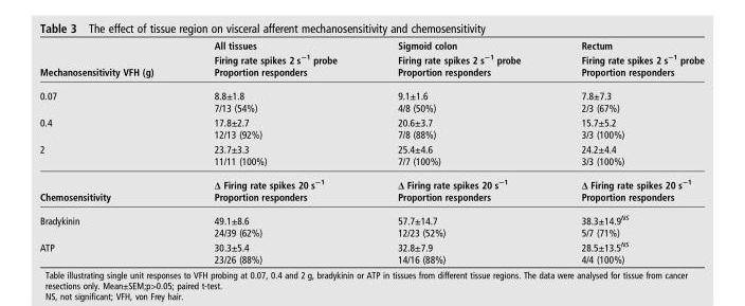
<table><thead><tr><td rowspan="2">Mechanosensitivity VFH (g)</td><td rowspan="2">All tissues Firing rate spikes 2 s<sup>−1</sup> probe Proportion responders</td><td rowspan="2">Sigmoid colon Firing rate spikes 2 s<sup>−1</sup> probe Proportion responders</td><td rowspan="2">Rectum Firing rate spikes 2 s<sup>−1</sup> probe Proportion responders</td></tr><tr></tr></thead><tbody><tr><td>0.07</td><td>8.8±1.8 7/13 (54%)</td><td>9.1±1.6 4/8 (50%)</td><td>7.8±7.3 2/3 (67%)</td></tr><tr><td>0.4</td><td>17.8±2.7 12/13 (92%)</td><td>20.6±3.7 7/8 (88%)</td><td>15.7±5.2 3/3 (100%)</td></tr><tr><td>2</td><td>23.7±3.3 11/11 (100%)</td><td>25.4±4.6 7/7 (100%)</td><td>24.2±4.4 3/3 (100%)</td></tr><tr><td>Chemosensitivity</td><td>Δ Firing rate spikes 20 s<sup>−1</sup> Proportion responders</td><td>Δ Firing rate spikes 20 s<sup>−1</sup> Proportion responders</td><td>Δ Firing rate spikes 20 s<sup>−1</sup> Proportion responders</td></tr><tr><td>Bradykinin</td><td>49.1±8.6 24/39 (62%)</td><td>57.7±14.7 12/23 (52%)</td><td>38.3±14.9<sup>NS</sup> 5/7 (71%)</td></tr><tr><td>ATP</td><td>30.3±5.4 23/26 (88%)</td><td>32.8±7.9 14/16 (88%)</td><td>28.5±13.5<sup>NS</sup> 4/4 (100%)</td></tr></tbody></table>